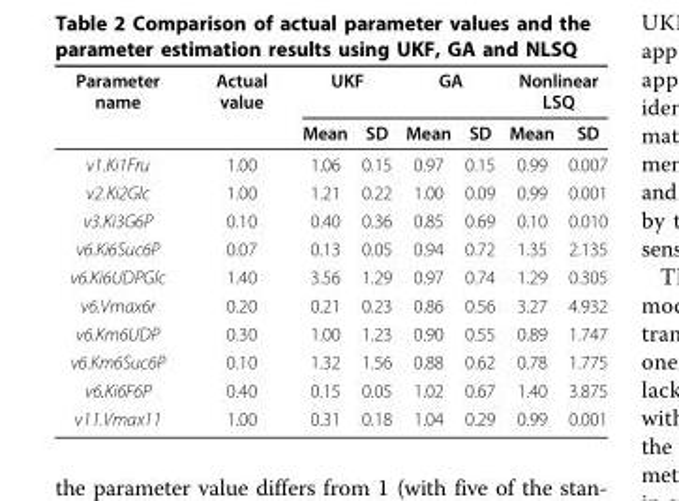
<table><thead><tr><td rowspan="2">Parameter name</td><td rowspan="2">Actual value</td><td colspan="2">UKF</td><td colspan="2">GA</td><td colspan="2">Nonlinear LSQ</td></tr><tr><td>Mean</td><td>SD</td><td>Mean</td><td>SD</td><td>Mean</td><td>SD</td></tr></thead><tbody><tr><td>v1.Ki1Fru</td><td>1.00</td><td>1.06</td><td>0.15</td><td>0.97</td><td>0.15</td><td>0.99</td><td>0.007</td></tr><tr><td>v2.Ki2Glc</td><td>1.00</td><td>1.21</td><td>0.22</td><td>1.00</td><td>0.09</td><td>0.99</td><td>0.001</td></tr><tr><td>v3.Ki3G6P</td><td>0.10</td><td>0.40</td><td>0.36</td><td>0.85</td><td>0.69</td><td>0.10</td><td>0.010</td></tr><tr><td>v6.Ki6Suc6P</td><td>0.07</td><td>0.13</td><td>0.05</td><td>0.94</td><td>0.72</td><td>1.35</td><td>2.135</td></tr><tr><td>v6.Ki6UDPGlc</td><td>1.40</td><td>3.56</td><td>1.29</td><td>0.97</td><td>0.74</td><td>1.29</td><td>0.305</td></tr><tr><td>v6.Vmax6r</td><td>0.20</td><td>0.21</td><td>0.23</td><td>0.86</td><td>0.56</td><td>3.27</td><td>4.932</td></tr><tr><td>v6.Km6UDP</td><td>0.30</td><td>1.00</td><td>1.23</td><td>0.90</td><td>0.55</td><td>0.89</td><td>1.747</td></tr><tr><td>v6.Km6Suc6P</td><td>0.10</td><td>1.32</td><td>1.56</td><td>0.88</td><td>0.62</td><td>0.78</td><td>1.775</td></tr><tr><td>v6.Ki6F6P</td><td>0.40</td><td>0.15</td><td>0.05</td><td>1.02</td><td>0.67</td><td>1.40</td><td>3.875</td></tr><tr><td>v11.Vmax11</td><td>1.00</td><td>0.31</td><td>0.18</td><td>1.04</td><td>0.29</td><td>0.99</td><td>0.001</td></tr></tbody></table>